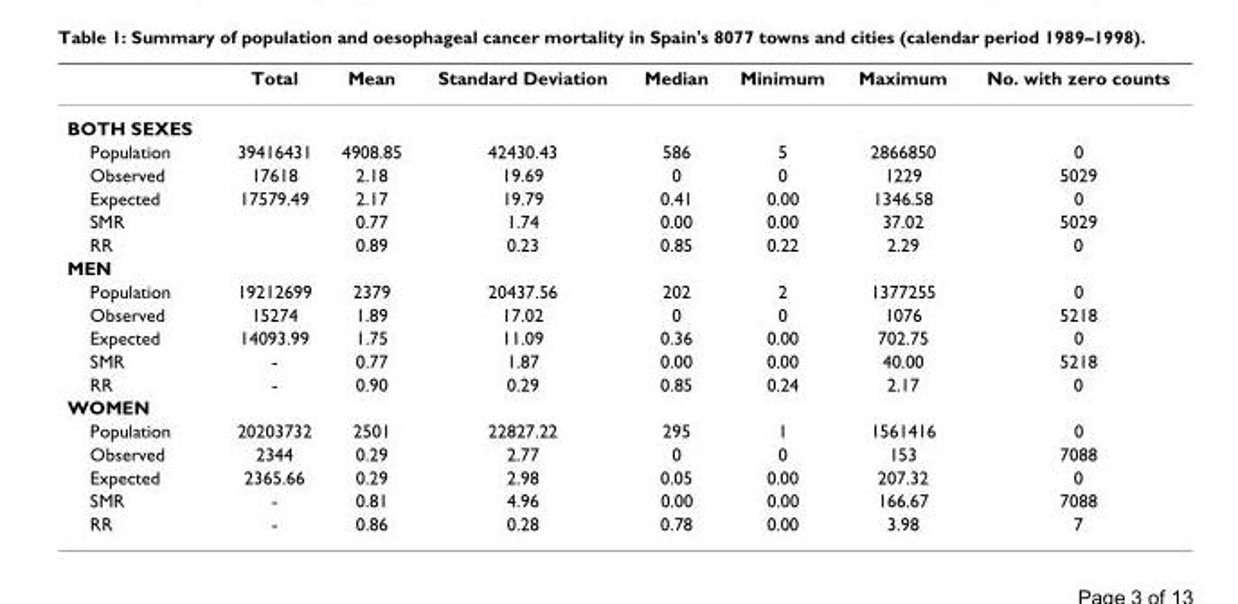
<table><thead><tr><td></td><td>Total</td><td>Mean</td><td>Standard Deviation</td><td>Median</td><td>Minimum</td><td>Maximum</td><td>No. with zero counts</td></tr></thead><tbody><tr><td colspan="8">BOTH SEXES</td></tr><tr><td>Population</td><td>39416431</td><td>4908.85</td><td>42430.43</td><td>586</td><td>5</td><td>2866850</td><td>0</td></tr><tr><td>Observed</td><td>17618</td><td>2.18</td><td>19.69</td><td>0</td><td>0</td><td>1229</td><td>5029</td></tr><tr><td>Expected</td><td>17579.49</td><td>2.17</td><td>19.79</td><td>0.41</td><td>0.00</td><td>1346.58</td><td>0</td></tr><tr><td>SMR</td><td></td><td>0.77</td><td>1.74</td><td>0.00</td><td>0.00</td><td>37.02</td><td>5029</td></tr><tr><td>RR</td><td></td><td>0.89</td><td>0.23</td><td>0.85</td><td>0.22</td><td>2.29</td><td>0</td></tr><tr><td colspan="8">MEN</td></tr><tr><td>Population</td><td>19212699</td><td>2379</td><td>20437.56</td><td>202</td><td>2</td><td>1377255</td><td>0</td></tr><tr><td>Observed</td><td>15274</td><td>1.89</td><td>17.02</td><td>0</td><td>0</td><td>1076</td><td>5218</td></tr><tr><td>Expected</td><td>14093.99</td><td>1.75</td><td>11.09</td><td>0.36</td><td>0.00</td><td>702.75</td><td>0</td></tr><tr><td>SMR</td><td>-</td><td>0.77</td><td>1.87</td><td>0.00</td><td>0.00</td><td>40.00</td><td>5218</td></tr><tr><td>RR</td><td>-</td><td>0.90</td><td>0.29</td><td>0.85</td><td>0.24</td><td>2.17</td><td>0</td></tr><tr><td colspan="8">WOMEN</td></tr><tr><td>Population</td><td>20203732</td><td>2501</td><td>22827.22</td><td>295</td><td>1</td><td>1561416</td><td>0</td></tr><tr><td>Observed</td><td>2344</td><td>0.29</td><td>2.77</td><td>0</td><td>0</td><td>153</td><td>7088</td></tr><tr><td>Expected</td><td>2365.66</td><td>0.29</td><td>2.98</td><td>0.05</td><td>0.00</td><td>207.32</td><td>0</td></tr><tr><td>SMR</td><td>-</td><td>0.81</td><td>4.96</td><td>0.00</td><td>0.00</td><td>166.67</td><td>7088</td></tr><tr><td>RR</td><td>-</td><td>0.86</td><td>0.28</td><td>0.78</td><td>0.00</td><td>3.98</td><td>7</td></tr></tbody></table>